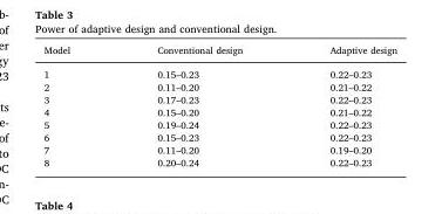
<table><thead><tr><td>Model</td><td>Conventional design</td><td>Adaptive design</td></tr></thead><tbody><tr><td>1</td><td>0.15–0.23</td><td>0.22–0.23</td></tr><tr><td>2</td><td>0.11–0.20</td><td>0.21–0.22</td></tr><tr><td>3</td><td>0.17–0.23</td><td>0.22–0.23</td></tr><tr><td>4</td><td>0.15–0.20</td><td>0.21–0.22</td></tr><tr><td>5</td><td>0.19–0.24</td><td>0.22–0.23</td></tr><tr><td>6</td><td>0.15–0.23</td><td>0.22–0.23</td></tr><tr><td>7</td><td>0.11–0.20</td><td>0.19–0.20</td></tr><tr><td>8</td><td>0.20–0.24</td><td>0.22–0.23</td></tr></tbody></table>